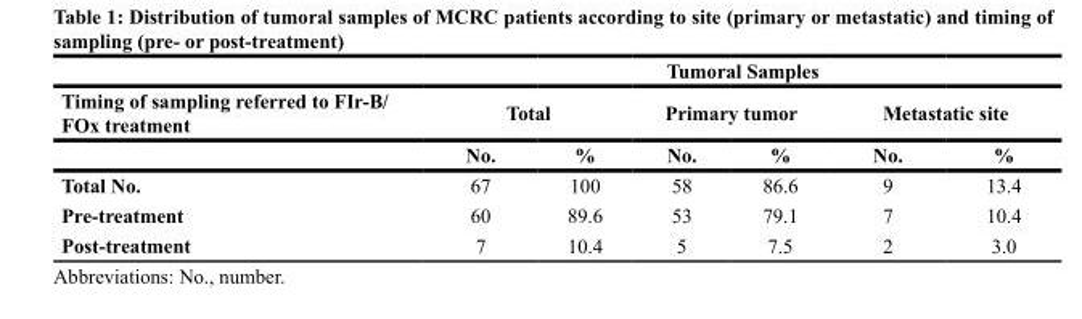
<table><thead><tr><td rowspan="3">Timing of sampling referred to FIr-B/ FOx treatment</td><td colspan="6">Tumoral Samples</td></tr><tr><td colspan="2">Total</td><td colspan="2">Primary tumor</td><td colspan="2">Metastatic site</td></tr><tr><td>No.</td><td>%</td><td>No.</td><td>%</td><td>No.</td><td>%</td></tr></thead><tbody><tr><td>Total No.</td><td>67</td><td>100</td><td>58</td><td>86.6</td><td>9</td><td>13.4</td></tr><tr><td>Pre-treatment</td><td>60</td><td>89.6</td><td>53</td><td>79.1</td><td>7</td><td>10.4</td></tr><tr><td>Post-treatment</td><td>7</td><td>10.4</td><td>5</td><td>7.5</td><td>2</td><td>3.0</td></tr></tbody></table>